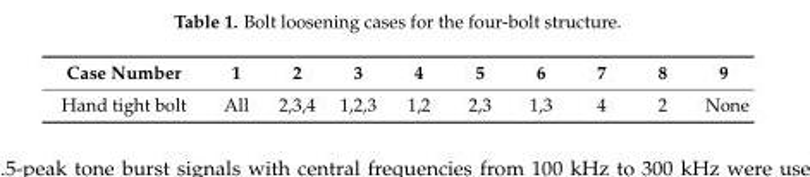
<table><thead><tr><td>Case Number</td><td>1</td><td>2</td><td>3</td><td>4</td><td>5</td><td>6</td><td>7</td><td>8</td><td>9</td></tr></thead><tbody><tr><td>Hand tight bolt</td><td>All</td><td>2,3,4</td><td>1,2,3</td><td>1,2</td><td>2,3</td><td>1,3</td><td>4</td><td>2</td><td>None</td></tr></tbody></table>